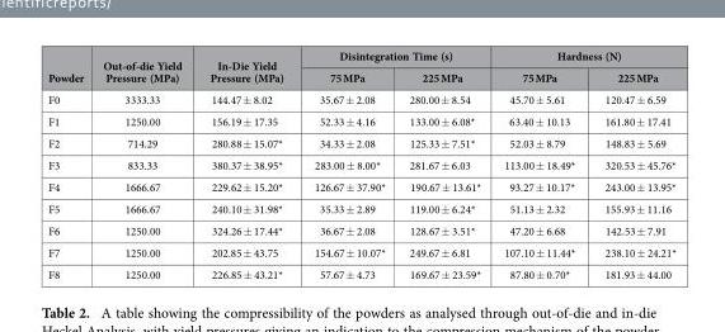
<table><thead><tr><td rowspan="2">Powder</td><td rowspan="2">Out-of-die Yield Pressure (MPa)</td><td rowspan="2">In-Die Yield Pressure (MPa)</td><td colspan="2">Disintegration Time (s)</td><td colspan="2">Hardness (N)</td></tr><tr><td>75 MPa</td><td>225 MPa</td><td>75 MPa</td><td>225 MPa</td></tr></thead><tbody><tr><td>F0</td><td>3333.33</td><td>144.47 ± 8.02</td><td>35.67 ± 2.08</td><td>280.00 ± 8.54</td><td>45.70 ± 5.61</td><td>120.47 ± 6.59</td></tr><tr><td>F1</td><td>1250.00</td><td>156.19 ± 17.35</td><td>52.33 ± 4.16</td><td>133.00 ± 6.08*</td><td>63.40 ± 10.13</td><td>161.80 ± 17.41</td></tr><tr><td>F2</td><td>714.29</td><td>280.88 ± 15.07*</td><td>34.33 ± 2.08</td><td>125.33 ± 7.51*</td><td>52.03 ± 8.79</td><td>148.83 ± 5.69</td></tr><tr><td>F3</td><td>833.33</td><td>380.37 ± 38.95*</td><td>283.00 ± 8.00*</td><td>281.67 ± 6.03</td><td>113.00 ± 18.49*</td><td>320.53 ± 45.76*</td></tr><tr><td>F4</td><td>1666.67</td><td>229.62 ± 15.20*</td><td>126.67 ± 37.90*</td><td>190.67 ± 13.61*</td><td>93.27 ± 10.17*</td><td>243.00 ± 13.95*</td></tr><tr><td>F5</td><td>1666.67</td><td>240.10 ± 31.98*</td><td>35.33 ± 2.89</td><td>119.00 ± 6.24*</td><td>51.13 ± 2.32</td><td>155.93 ± 11.16</td></tr><tr><td>F6</td><td>1250.00</td><td>324.26 ± 17.44*</td><td>36.67 ± 2.08</td><td>128.67 ± 3.51*</td><td>47.20 ± 6.68</td><td>142.53 ± 7.91</td></tr><tr><td>F7</td><td>1250.00</td><td>202.85 ± 43.75</td><td>154.67 ± 10.07*</td><td>249.67 ± 6.81</td><td>107.10 ± 11.44*</td><td>238.10 ± 24.21*</td></tr><tr><td>F8</td><td>1250.00</td><td>226.85 ± 43.21*</td><td>57.67 ± 4.73</td><td>169.67 ± 23.59*</td><td>87.80 ± 0.70*</td><td>181.93 ± 44.00</td></tr></tbody></table>